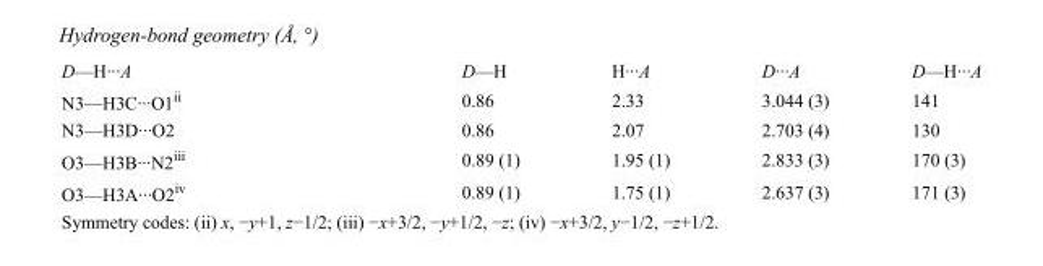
<table><tbody><tr><td>D—H···A</td><td>D—H</td><td>H···A</td><td>D···A</td><td>D—H···A</td></tr><tr><td>N3—H3C···O1<sup>ii</sup></td><td>0.86</td><td>2.33</td><td>3.044 (3)</td><td>141</td></tr><tr><td>N3—H3D···O2</td><td>0.86</td><td>2.07</td><td>2.703 (4)</td><td>130</td></tr><tr><td>O3—H3B···N2<sup>iii</sup></td><td>0.89 (1)</td><td>1.95 (1)</td><td>2.833 (3)</td><td>170 (3)</td></tr><tr><td>O3—H3A···O2<sup>iv</sup></td><td>0.89 (1)</td><td>1.75 (1)</td><td>2.637 (3)</td><td>171 (3)</td></tr></tbody></table>